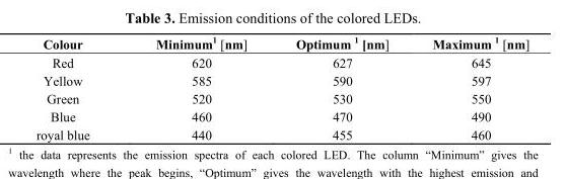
<table><thead><tr><td>Colour</td><td>Minimum<sup>1</sup> [nm]</td><td>Optimum <sup>1</sup> [nm]</td><td>Maximum <sup>1</sup> [nm]</td></tr></thead><tbody><tr><td>Red</td><td>620</td><td>627</td><td>645</td></tr><tr><td>Yellow</td><td>585</td><td>590</td><td>597</td></tr><tr><td>Green</td><td>520</td><td>530</td><td>550</td></tr><tr><td>Blue</td><td>460</td><td>470</td><td>490</td></tr><tr><td>royal blue</td><td>440</td><td>455</td><td>460</td></tr></tbody></table>